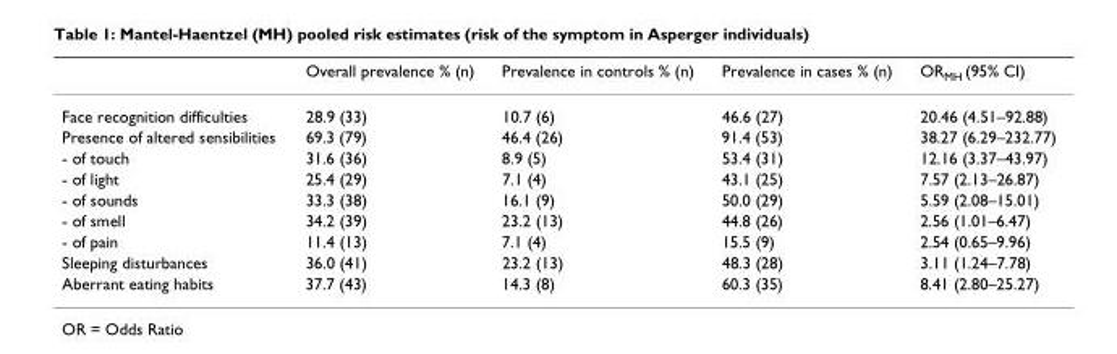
<table><thead><tr><td></td><td>Overall prevalence % (n)</td><td>Prevalence in controls % (n)</td><td>Prevalence in cases % (n)</td><td>OR<sub>MH</sub> (95% CI)</td></tr></thead><tbody><tr><td>Face recognition difficulties</td><td>28.9 (33)</td><td>10.7 (6)</td><td>46.6 (27)</td><td>20.46 (4.51–92.88)</td></tr><tr><td>Presence of altered sensibilities</td><td>69.3 (79)</td><td>46.4 (26)</td><td>91.4 (53)</td><td>38.27 (6.29–232.77)</td></tr><tr><td>- of touch</td><td>31.6 (36)</td><td>8.9 (5)</td><td>53.4 (31)</td><td>12.16 (3.37–43.97)</td></tr><tr><td>- of light</td><td>25.4 (29)</td><td>7.1 (4)</td><td>43.1 (25)</td><td>7.57 (2.13–26.87)</td></tr><tr><td>- of sounds</td><td>33.3 (38)</td><td>16.1 (9)</td><td>50.0 (29)</td><td>5.59 (2.08–15.01)</td></tr><tr><td>- of smell</td><td>34.2 (39)</td><td>23.2 (13)</td><td>44.8 (26)</td><td>2.56 (1.01–6.47)</td></tr><tr><td>- of pain</td><td>11.4 (13)</td><td>7.1 (4)</td><td>15.5 (9)</td><td>2.54 (0.65–9.96)</td></tr><tr><td>Sleeping disturbances</td><td>36.0 (41)</td><td>23.2 (13)</td><td>48.3 (28)</td><td>3.11 (1.24–7.78)</td></tr><tr><td>Aberrant eating habits</td><td>37.7 (43)</td><td>14.3 (8)</td><td>60.3 (35)</td><td>8.41 (2.80–25.27)</td></tr></tbody></table>